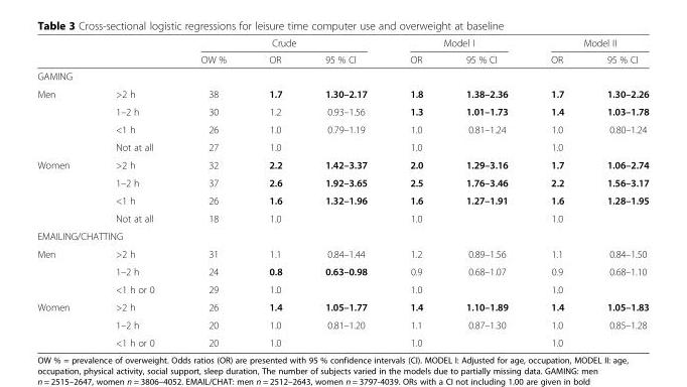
<table><thead><tr><td rowspan="2"></td><td rowspan="2"></td><td colspan="3">Crude</td><td colspan="2">Model I</td><td colspan="2">Model II</td></tr><tr><td>OW %</td><td>OR</td><td>95 % CI</td><td>OR</td><td>95 % CI</td><td>OR</td><td>95 % CI</td></tr></thead><tbody><tr><td colspan="9">GAMING</td></tr><tr><td rowspan="4">Men</td><td>&gt;2 h</td><td>38</td><td>1.7</td><td>1.30–2.17</td><td>1.8</td><td>1.38–2.36</td><td>1.7</td><td>1.30–2.26</td></tr><tr><td>1–2 h</td><td>30</td><td>1.2</td><td>0.93–1.56</td><td>1.3</td><td>1.01–1.73</td><td>1.4</td><td>1.03–1.78</td></tr><tr><td>&lt;1 h</td><td>26</td><td>1.0</td><td>0.79–1.19</td><td>1.0</td><td>0.81–1.24</td><td>1.0</td><td>0.80–1.24</td></tr><tr><td>Not at all</td><td>27</td><td>1.0</td><td></td><td>1.0</td><td></td><td>1.0</td><td></td></tr><tr><td rowspan="4">Women</td><td>&gt;2 h</td><td>32</td><td>2.2</td><td>1.42–3.37</td><td>2.0</td><td>1.29–3.16</td><td>1.7</td><td>1.06–2.74</td></tr><tr><td>1–2 h</td><td>37</td><td>2.6</td><td>1.92–3.65</td><td>2.5</td><td>1.76–3.46</td><td>2.2</td><td>1.56–3.17</td></tr><tr><td>&lt;1 h</td><td>26</td><td>1.6</td><td>1.32–1.96</td><td>1.6</td><td>1.27–1.91</td><td>1.6</td><td>1.28–1.95</td></tr><tr><td>Not at all</td><td>18</td><td>1.0</td><td></td><td>1.0</td><td></td><td>1.0</td><td></td></tr><tr><td colspan="9">EMAILING/CHATTING</td></tr><tr><td rowspan="3">Men</td><td>&gt;2 h</td><td>31</td><td>1.1</td><td>0.84–1.44</td><td>1.2</td><td>0.89–1.56</td><td>1.1</td><td>0.84–1.50</td></tr><tr><td>1–2 h</td><td>24</td><td>0.8</td><td>0.63–0.98</td><td>0.9</td><td>0.68–1.07</td><td>0.9</td><td>0.68–1.10</td></tr><tr><td>&lt;1 h or 0</td><td>29</td><td>1.0</td><td></td><td>1.0</td><td></td><td>1.0</td><td></td></tr><tr><td rowspan="3">Women</td><td>&gt;2 h</td><td>26</td><td>1.4</td><td>1.05–1.77</td><td>1.4</td><td>1.10–1.89</td><td>1.4</td><td>1.05–1.83</td></tr><tr><td>1–2 h</td><td>20</td><td>1.0</td><td>0.81–1.20</td><td>1.1</td><td>0.87–1.30</td><td>1.0</td><td>0.85–1.28</td></tr><tr><td>&lt;1 h or 0</td><td>20</td><td>1.0</td><td></td><td>1.0</td><td></td><td>1.0</td><td></td></tr></tbody></table>